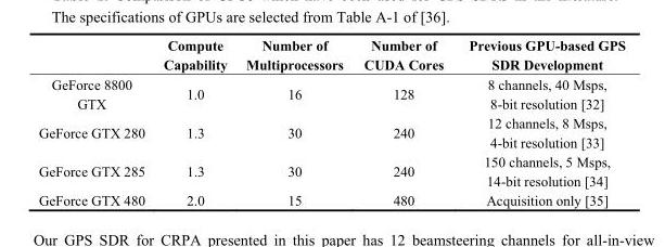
<table><thead><tr><td></td><td>Compute Capability</td><td>Number of Multiprocessors</td><td>Number of CUDA Cores</td><td>Previous GPU-based GPS SDR Development</td></tr></thead><tbody><tr><td>GeForce 8800 GTX</td><td>1.0</td><td>16</td><td>128</td><td>8 channels, 40 Msps, 8-bit resolution [32]</td></tr><tr><td>GeForce GTX 280</td><td>1.3</td><td>30</td><td>240</td><td>12 channels, 8 Msps, 4-bit resolution [33]</td></tr><tr><td>GeForce GTX 285</td><td>1.3</td><td>30</td><td>240</td><td>150 channels, 5 Msps, 14-bit resolution [34]</td></tr><tr><td>GeForce GTX 480</td><td>2.0</td><td>15</td><td>480</td><td>Acquisition only [35]</td></tr></tbody></table>